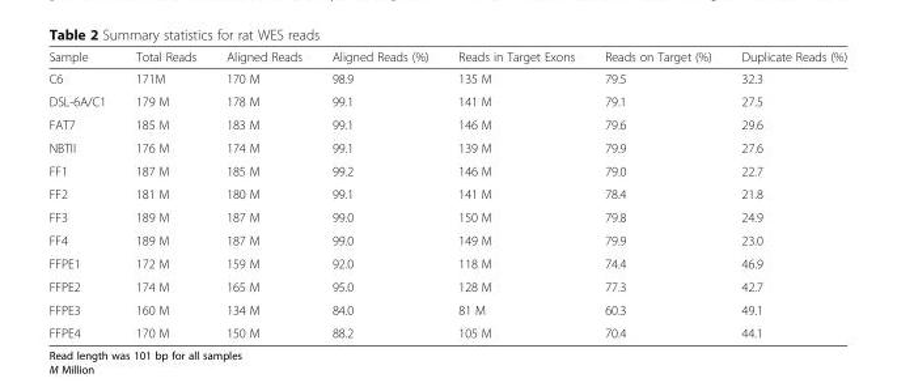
<table><thead><tr><td>Sample</td><td>Total Reads</td><td>Aligned Reads</td><td>Aligned Reads (%)</td><td>Reads in Target Exons</td><td>Reads on Target (%)</td><td>Duplicate Reads (%)</td></tr></thead><tbody><tr><td>C6</td><td>171M</td><td>170 M</td><td>98.9</td><td>135 M</td><td>79.5</td><td>32.3</td></tr><tr><td>DSL-6A/C1</td><td>179 M</td><td>178 M</td><td>99.1</td><td>141 M</td><td>79.1</td><td>27.5</td></tr><tr><td>FAT7</td><td>185 M</td><td>183 M</td><td>99.1</td><td>146 M</td><td>79.6</td><td>29.6</td></tr><tr><td>NBTII</td><td>176 M</td><td>174 M</td><td>99.1</td><td>139 M</td><td>79.9</td><td>27.6</td></tr><tr><td>FF1</td><td>187 M</td><td>185 M</td><td>99.2</td><td>146 M</td><td>79.0</td><td>22.7</td></tr><tr><td>FF2</td><td>181 M</td><td>180 M</td><td>99.1</td><td>141 M</td><td>78.4</td><td>21.8</td></tr><tr><td>FF3</td><td>189 M</td><td>187 M</td><td>99.0</td><td>150 M</td><td>79.8</td><td>24.9</td></tr><tr><td>FF4</td><td>189 M</td><td>187 M</td><td>99.0</td><td>149 M</td><td>79.9</td><td>23.0</td></tr><tr><td>FFPE1</td><td>172 M</td><td>159 M</td><td>92.0</td><td>118 M</td><td>74.4</td><td>46.9</td></tr><tr><td>FFPE2</td><td>174 M</td><td>165 M</td><td>95.0</td><td>128 M</td><td>77.3</td><td>42.7</td></tr><tr><td>FFPE3</td><td>160 M</td><td>134 M</td><td>84.0</td><td>81 M</td><td>60.3</td><td>49.1</td></tr><tr><td>FFPE4</td><td>170 M</td><td>150 M</td><td>88.2</td><td>105 M</td><td>70.4</td><td>44.1</td></tr></tbody></table>